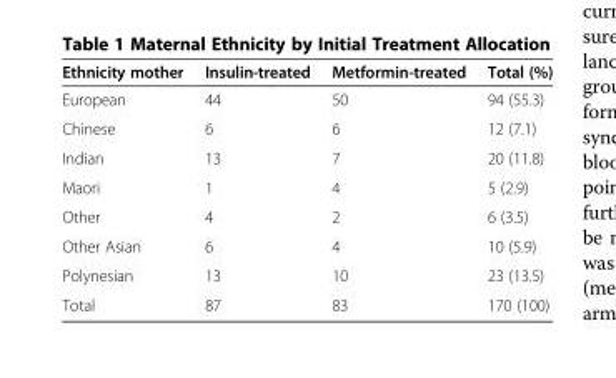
<table><thead><tr><td>Ethnicity mother</td><td>Insulin-treated</td><td>Metformin-treated</td><td>Total (%)</td></tr></thead><tbody><tr><td>European</td><td>44</td><td>50</td><td>94 (55.3)</td></tr><tr><td>Chinese</td><td>6</td><td>6</td><td>12 (7.1)</td></tr><tr><td>Indian</td><td>13</td><td>7</td><td>20 (11.8)</td></tr><tr><td>Maori</td><td>1</td><td>4</td><td>5 (2.9)</td></tr><tr><td>Other</td><td>4</td><td>2</td><td>6 (3.5)</td></tr><tr><td>Other Asian</td><td>6</td><td>4</td><td>10 (5.9)</td></tr><tr><td>Polynesian</td><td>13</td><td>10</td><td>23 (13.5)</td></tr><tr><td>Total</td><td>87</td><td>83</td><td>170 (100)</td></tr></tbody></table>